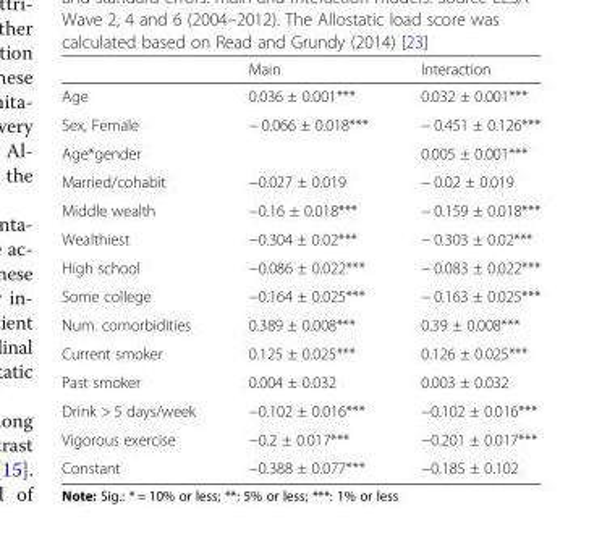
<table><thead><tr><td></td><td>Main</td><td>Interaction</td></tr></thead><tbody><tr><td>Age</td><td>0.036 ± 0.001***</td><td>0.032 ± 0.001***</td></tr><tr><td>Sex, Female</td><td>− 0.066 ± 0.018***</td><td>− 0.451 ± 0.126***</td></tr><tr><td>Age*gender</td><td></td><td>0.005 ± 0.001***</td></tr><tr><td>Married/cohabit</td><td>−0.027 ± 0.019</td><td>− 0.02 ± 0.019</td></tr><tr><td>Middle wealth</td><td>−0.16 ± 0.018***</td><td>− 0.159 ± 0.018***</td></tr><tr><td>Wealthiest</td><td>−0.304 ± 0.02***</td><td>− 0.303 ± 0.02***</td></tr><tr><td>High school</td><td>−0.086 ± 0.022***</td><td>− 0.083 ± 0.022***</td></tr><tr><td>Some college</td><td>−0.164 ± 0.025***</td><td>− 0.163 ± 0.025***</td></tr><tr><td>Num. comorbidities</td><td>0.389 ± 0.008***</td><td>0.39 ± 0.008***</td></tr><tr><td>Current smoker</td><td>0.125 ± 0.025***</td><td>0.126 ± 0.025***</td></tr><tr><td>Past smoker</td><td>0.004 ± 0.032</td><td>0.003 ± 0.032</td></tr><tr><td>Drink &gt; 5 days/week</td><td>−0.102 ± 0.016***</td><td>−0.102 ± 0.016***</td></tr><tr><td>Vigorous exercise</td><td>−0.2 ± 0.017***</td><td>−0.201 ± 0.017***</td></tr><tr><td>Constant</td><td>−0.388 ± 0.077***</td><td>−0.185 ± 0.102</td></tr></tbody></table>